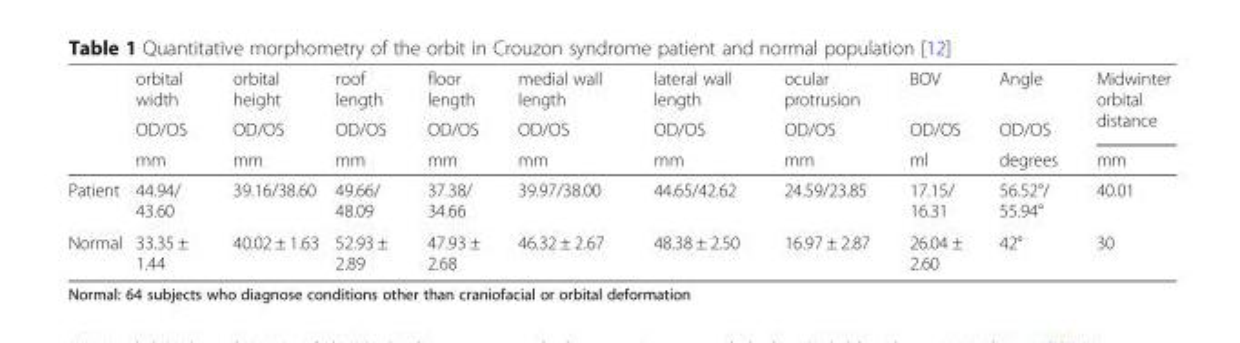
<table><thead><tr><td rowspan="3"></td><td rowspan="3">orbital width OD/OS mm</td><td rowspan="3">orbital height OD/OS mm</td><td rowspan="3">roof length OD/OS mm</td><td rowspan="3">floor length OD/OS mm</td><td rowspan="3">medial wall length OD/OS mm</td><td rowspan="3">lateral wall length OD/OS mm</td><td rowspan="3">ocular protrusion OD/OS mm</td><td rowspan="3">BOV OD/OS ml</td><td rowspan="3">Angle OD/OS degrees</td><td rowspan="3">Midwinter orbital distance mm</td></tr><tr></tr><tr></tr></thead><tbody><tr><td>Patient</td><td>44.94/ 43.60</td><td>39.16/38.60</td><td>49.66/ 48.09</td><td>37.38/ 34.66</td><td>39.97/38.00</td><td>44.65/42.62</td><td>24.59/23.85</td><td>17.15/ 16.31</td><td>56.52°/ 55.94°</td><td>40.01</td></tr><tr><td>Normal</td><td>33.35 ± 1.44</td><td>40.02 ± 1.63</td><td>52.93 ± 2.89</td><td>47.93 ± 2.68</td><td>46.32 ± 2.67</td><td>48.38 ± 2.50</td><td>16.97 ± 2.87</td><td>26.04 ± 2.60</td><td>42°</td><td>30</td></tr></tbody></table>